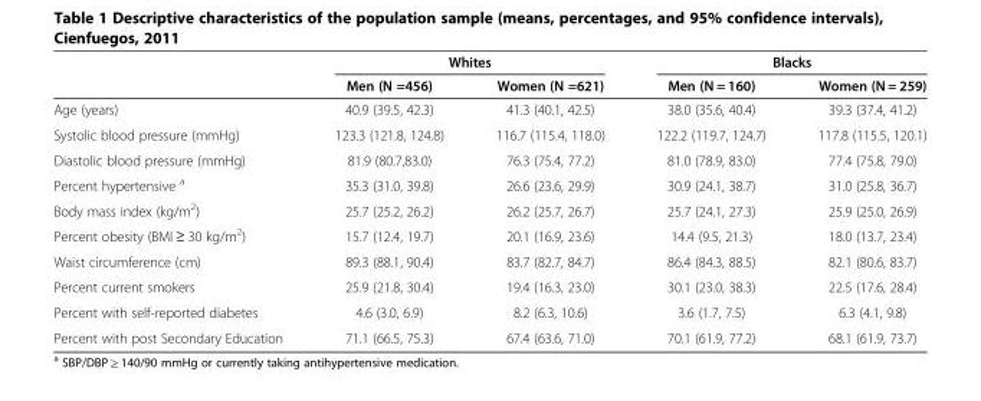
<table><thead><tr><td rowspan="2"></td><td colspan="2">Whites</td><td colspan="2">Blacks</td></tr><tr><td>Men (N =456)</td><td>Women (N =621)</td><td>Men (N = 160)</td><td>Women (N = 259)</td></tr></thead><tbody><tr><td>Age (years)</td><td>40.9 (39.5, 42.3)</td><td>41.3 (40.1, 42.5)</td><td>38.0 (35.6, 40.4)</td><td>39.3 (37.4, 41.2)</td></tr><tr><td>Systolic blood pressure (mmHg)</td><td>123.3 (121.8, 124.8)</td><td>116.7 (115.4, 118.0)</td><td>122.2 (119.7, 124.7)</td><td>117.8 (115.5, 120.1)</td></tr><tr><td>Diastolic blood pressure (mmHg)</td><td>81.9 (80.7,83.0)</td><td>76.3 (75.4, 77.2)</td><td>81.0 (78.9, 83.0)</td><td>77.4 (75.8, 79.0)</td></tr><tr><td>Percent hypertensive <sup>a</sup></td><td>35.3 (31.0, 39.8)</td><td>26.6 (23.6, 29.9)</td><td>30.9 (24.1, 38.7)</td><td>31.0 (25.8, 36.7)</td></tr><tr><td>Body mass index (kg/m<sup>2</sup>)</td><td>25.7 (25.2, 26.2)</td><td>26.2 (25.7, 26.7)</td><td>25.7 (24.1, 27.3)</td><td>25.9 (25.0, 26.9)</td></tr><tr><td>Percent obesity (BMI ≥ 30 kg/m<sup>2</sup>)</td><td>15.7 (12.4, 19.7)</td><td>20.1 (16.9, 23.6)</td><td>14.4 (9.5, 21.3)</td><td>18.0 (13.7, 23.4)</td></tr><tr><td>Waist circumference (cm)</td><td>89.3 (88.1, 90.4)</td><td>83.7 (82.7, 84.7)</td><td>86.4 (84.3, 88.5)</td><td>82.1 (80.6, 83.7)</td></tr><tr><td>Percent current smokers</td><td>25.9 (21.8, 30.4)</td><td>19.4 (16.3, 23.0)</td><td>30.1 (23.0, 38.3)</td><td>22.5 (17.6, 28.4)</td></tr><tr><td>Percent with self-reported diabetes</td><td>4.6 (3.0, 6.9)</td><td>8.2 (6.3, 10.6)</td><td>3.6 (1.7, 7.5)</td><td>6.3 (4.1, 9.8)</td></tr><tr><td>Percent with post Secondary Education</td><td>71.1 (66.5, 75.3)</td><td>67.4 (63.6, 71.0)</td><td>70.1 (61.9, 77.2)</td><td>68.1 (61.9, 73.7)</td></tr></tbody></table>